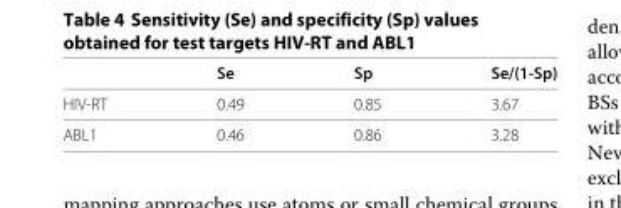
<table><thead><tr><td></td><td>Se</td><td>Sp</td><td>Se/(1-Sp)</td></tr></thead><tbody><tr><td>HIV-RT</td><td>0.49</td><td>0.85</td><td>3.67</td></tr><tr><td>ABL1</td><td>0.46</td><td>0.86</td><td>3.28</td></tr></tbody></table>